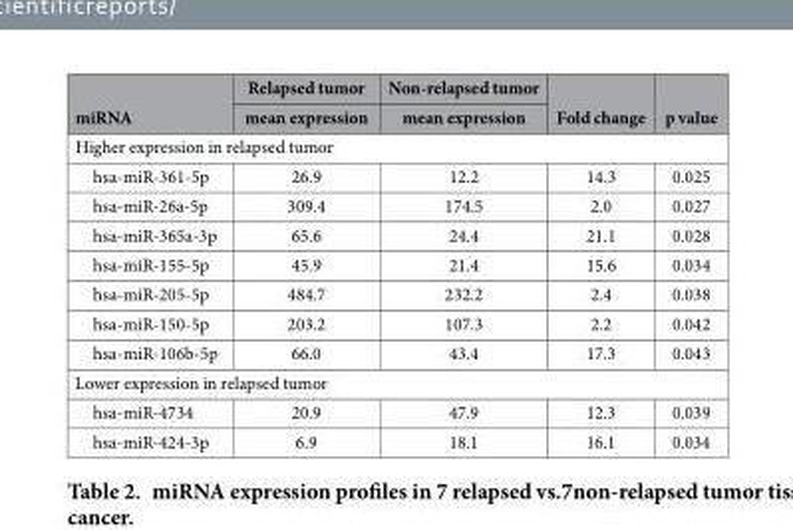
<table><thead><tr><td rowspan="2">miRNA</td><td rowspan="2">Relapsed tumor mean expression</td><td rowspan="2">Non-relapsed tumor mean expression</td><td rowspan="2">Fold change</td><td rowspan="2">p value</td></tr><tr></tr></thead><tbody><tr><td colspan="5">Higher expression in relapsed tumor</td></tr><tr><td>hsa-miR-361-5p</td><td>26.9</td><td>12.2</td><td>14.3</td><td>0.025</td></tr><tr><td>hsa-miR-26a-5p</td><td>309.4</td><td>174.5</td><td>2.0</td><td>0.027</td></tr><tr><td>hsa-miR-365a-3p</td><td>65.6</td><td>24.4</td><td>21.1</td><td>0.028</td></tr><tr><td>hsa-miR-155-5p</td><td>45.9</td><td>21.4</td><td>15.6</td><td>0.034</td></tr><tr><td>hsa-miR-205-5p</td><td>484.7</td><td>232.2</td><td>2.4</td><td>0.038</td></tr><tr><td>hsa-miR-150-5p</td><td>203.2</td><td>107.3</td><td>2.2</td><td>0.042</td></tr><tr><td>hsa-miR-106b-5p</td><td>66.0</td><td>43.4</td><td>17.3</td><td>0.043</td></tr><tr><td colspan="5">Lower expression in relapsed tumor</td></tr><tr><td>hsa-miR-4734</td><td>20.9</td><td>47.9</td><td>12.3</td><td>0.039</td></tr><tr><td>hsa-miR-424-3p</td><td>6.9</td><td>18.1</td><td>16.1</td><td>0.034</td></tr></tbody></table>